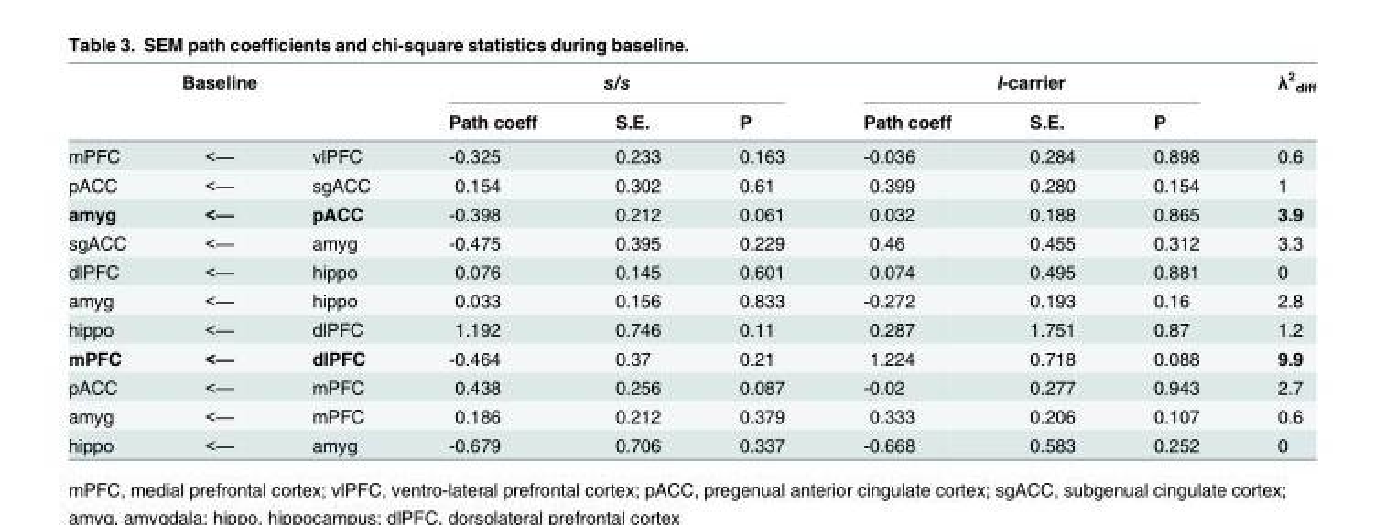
<table><thead><tr><td rowspan="2" colspan="3">Baseline</td><td colspan="3">s/s</td><td colspan="3">l-carrier</td><td rowspan="3">λ<sup>2</sup> <sub>diff</sub> 0.6</td></tr><tr><td rowspan="2">Path coeff -0.325</td><td rowspan="2">S.E. 0.233</td><td rowspan="2">P 0.163</td><td rowspan="2">Path coeff -0.036</td><td rowspan="2">S.E. 0.284</td><td rowspan="2">P 0.898</td></tr><tr><td>mPFC</td><td>&lt;—</td><td>vlPFC</td></tr></thead><tbody><tr><td>pACC</td><td>&lt;—</td><td>sgACC</td><td>0.154</td><td>0.302</td><td>0.61</td><td>0.399</td><td>0.280</td><td>0.154</td><td>1</td></tr><tr><td>amyg</td><td>&lt;—</td><td>pACC</td><td>-0.398</td><td>0.212</td><td>0.061</td><td>0.032</td><td>0.188</td><td>0.865</td><td>3.9</td></tr><tr><td>sgACC</td><td>&lt;—</td><td>amyg</td><td>-0.475</td><td>0.395</td><td>0.229</td><td>0.46</td><td>0.455</td><td>0.312</td><td>3.3</td></tr><tr><td>dlPFC</td><td>&lt;—</td><td>hippo</td><td>0.076</td><td>0.145</td><td>0.601</td><td>0.074</td><td>0.495</td><td>0.881</td><td>0</td></tr><tr><td>amyg</td><td>&lt;—</td><td>hippo</td><td>0.033</td><td>0.156</td><td>0.833</td><td>-0.272</td><td>0.193</td><td>0.16</td><td>2.8</td></tr><tr><td>hippo</td><td>&lt;—</td><td>dlPFC</td><td>1.192</td><td>0.746</td><td>0.11</td><td>0.287</td><td>1.751</td><td>0.87</td><td>1.2</td></tr><tr><td>mPFC</td><td>&lt;—</td><td>dlPFC</td><td>-0.464</td><td>0.37</td><td>0.21</td><td>1.224</td><td>0.718</td><td>0.088</td><td>9.9</td></tr><tr><td>pACC</td><td>&lt;—</td><td>mPFC</td><td>0.438</td><td>0.256</td><td>0.087</td><td>-0.02</td><td>0.277</td><td>0.943</td><td>2.7</td></tr><tr><td>amyg</td><td>&lt;—</td><td>mPFC</td><td>0.186</td><td>0.212</td><td>0.379</td><td>0.333</td><td>0.206</td><td>0.107</td><td>0.6</td></tr><tr><td>hippo</td><td>&lt;—</td><td>amyg</td><td>-0.679</td><td>0.706</td><td>0.337</td><td>-0.668</td><td>0.583</td><td>0.252</td><td>0</td></tr></tbody></table>